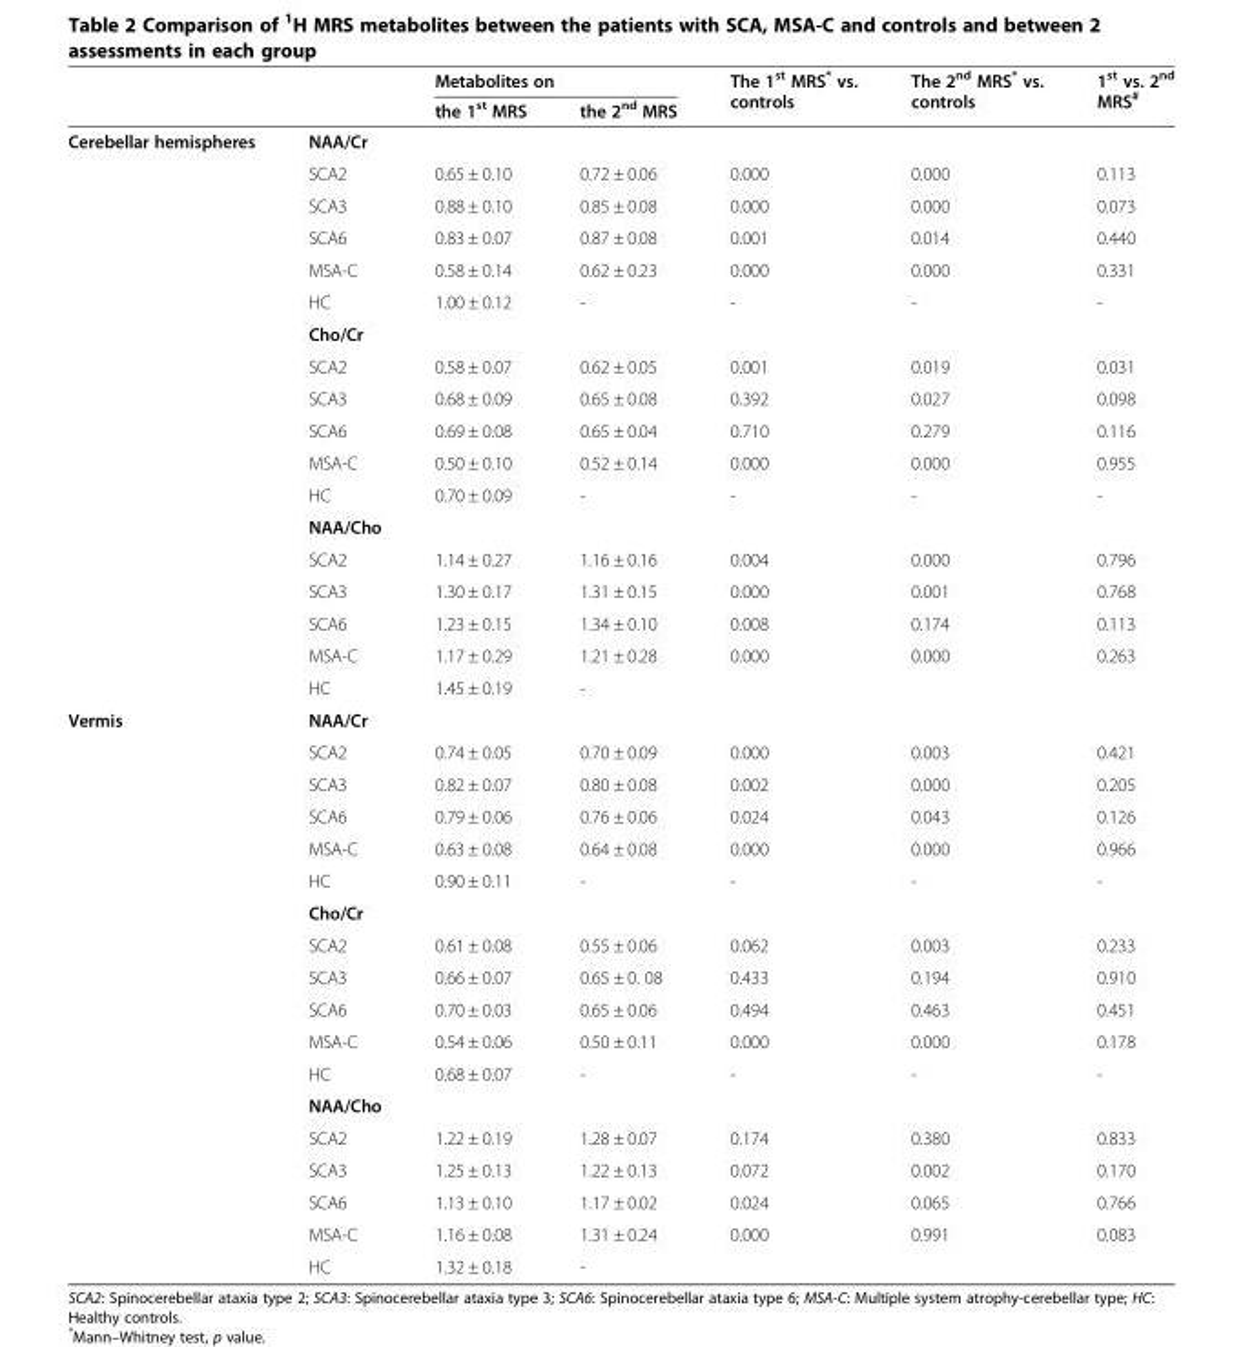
<table><thead><tr><td rowspan="2"></td><td rowspan="2"></td><td colspan="2">Metabolites on</td><td rowspan="2">The 1<sup>st</sup> MRS* vs. controls</td><td rowspan="2">The 2<sup>nd</sup> MRS* vs. controls</td><td rowspan="2">1<sup>st</sup> vs. 2<sup>nd</sup> MRS<sup>#</sup></td></tr><tr><td>the 1<sup>st</sup> MRS</td><td>the 2<sup>nd</sup> MRS</td></tr></thead><tbody><tr><td rowspan="18">Cerebellar hemispheres</td><td>NAA/Cr</td><td></td><td></td><td></td><td></td><td></td></tr><tr><td>SCA2</td><td>0.65 ± 0.10</td><td>0.72 ± 0.06</td><td>0.000</td><td>0.000</td><td>0.113</td></tr><tr><td>SCA3</td><td>0.88 ± 0.10</td><td>0.85 ± 0.08</td><td>0.000</td><td>0.000</td><td>0.073</td></tr><tr><td>SCA6</td><td>0.83 ± 0.07</td><td>0.87 ± 0.08</td><td>0.001</td><td>0.014</td><td>0.440</td></tr><tr><td>MSA-C</td><td>0.58 ± 0.14</td><td>0.62 ± 0.23</td><td>0.000</td><td>0.000</td><td>0.331</td></tr><tr><td>HC</td><td>1.00 ± 0.12</td><td>-</td><td>-</td><td>-</td><td>-</td></tr><tr><td>Cho/Cr</td><td></td><td></td><td></td><td></td><td></td></tr><tr><td>SCA2</td><td>0.58 ± 0.07</td><td>0.62 ± 0.05</td><td>0.001</td><td>0.019</td><td>0.031</td></tr><tr><td>SCA3</td><td>0.68 ± 0.09</td><td>0.65 ± 0.08</td><td>0.392</td><td>0.027</td><td>0.098</td></tr><tr><td>SCA6</td><td>0.69 ± 0.08</td><td>0.65 ± 0.04</td><td>0.710</td><td>0.279</td><td>0.116</td></tr><tr><td>MSA-C</td><td>0.50 ± 0.10</td><td>0.52 ± 0.14</td><td>0.000</td><td>0.000</td><td>0.955</td></tr><tr><td>HC</td><td>0.70 ± 0.09</td><td>-</td><td>-</td><td>-</td><td>-</td></tr><tr><td>NAA/Cho</td><td></td><td></td><td></td><td></td><td></td></tr><tr><td>SCA2</td><td>1.14 ± 0.27</td><td>1.16 ± 0.16</td><td>0.004</td><td>0.000</td><td>0.796</td></tr><tr><td>SCA3</td><td>1.30 ± 0.17</td><td>1.31 ± 0.15</td><td>0.000</td><td>0.001</td><td>0.768</td></tr><tr><td>SCA6</td><td>1.23 ± 0.15</td><td>1.34 ± 0.10</td><td>0.008</td><td>0.174</td><td>0.113</td></tr><tr><td>MSA-C</td><td>1.17 ± 0.29</td><td>1.21 ± 0.28</td><td>0.000</td><td>0.000</td><td>0.263</td></tr><tr><td>HC</td><td>1.45 ± 0.19</td><td>-</td><td></td><td></td><td></td></tr><tr><td rowspan="18">Vermis</td><td>NAA/Cr</td><td></td><td></td><td></td><td></td><td></td></tr><tr><td>SCA2</td><td>0.74 ± 0.05</td><td>0.70 ± 0.09</td><td>0.000</td><td>0.003</td><td>0.421</td></tr><tr><td>SCA3</td><td>0.82 ± 0.07</td><td>0.80 ± 0.08</td><td>0.002</td><td>0.000</td><td>0.205</td></tr><tr><td>SCA6</td><td>0.79 ± 0.06</td><td>0.76 ± 0.06</td><td>0.024</td><td>0.043</td><td>0.126</td></tr><tr><td>MSA-C</td><td>0.63 ± 0.08</td><td>0.64 ± 0.08</td><td>0.000</td><td>0.000</td><td>0.966</td></tr><tr><td>HC</td><td>0.90 ± 0.11</td><td>-</td><td>-</td><td>-</td><td>-</td></tr><tr><td>Cho/Cr</td><td></td><td></td><td></td><td></td><td></td></tr><tr><td>SCA2</td><td>0.61 ± 0.08</td><td>0.55 ± 0.06</td><td>0.062</td><td>0.003</td><td>0.233</td></tr><tr><td>SCA3</td><td>0.66 ± 0.07</td><td>0.65 ± 0. 08</td><td>0.433</td><td>0.194</td><td>0.910</td></tr><tr><td>SCA6</td><td>0.70 ± 0.03</td><td>0.65 ± 0.06</td><td>0.494</td><td>0.463</td><td>0.451</td></tr><tr><td>MSA-C</td><td>0.54 ± 0.06</td><td>0.50 ± 0.11</td><td>0.000</td><td>0.000</td><td>0.178</td></tr><tr><td>HC</td><td>0.68 ± 0.07</td><td>-</td><td>-</td><td>-</td><td>-</td></tr><tr><td>NAA/Cho</td><td></td><td></td><td></td><td></td><td></td></tr><tr><td>SCA2</td><td>1.22 ± 0.19</td><td>1.28 ± 0.07</td><td>0.174</td><td>0.380</td><td>0.833</td></tr><tr><td>SCA3</td><td>1.25 ± 0.13</td><td>1.22 ± 0.13</td><td>0.072</td><td>0.002</td><td>0.170</td></tr><tr><td>SCA6</td><td>1.13 ± 0.10</td><td>1.17 ± 0.02</td><td>0.024</td><td>0.065</td><td>0.766</td></tr><tr><td>MSA-C</td><td>1.16 ± 0.08</td><td>1.31 ± 0.24</td><td>0.000</td><td>0.991</td><td>0.083</td></tr><tr><td>HC</td><td>1.32 ± 0.18</td><td>-</td><td></td><td></td><td></td></tr></tbody></table>